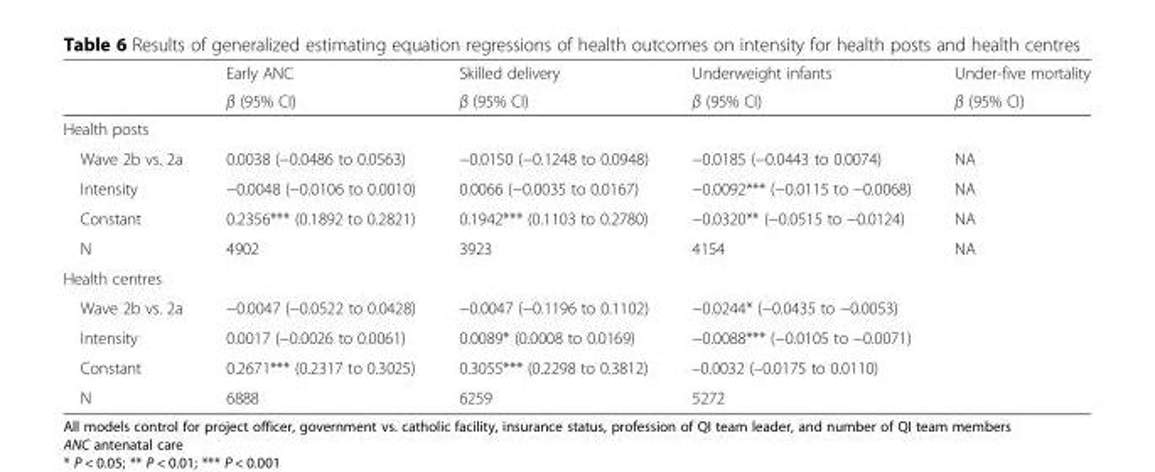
<table><thead><tr><td rowspan="2"></td><td rowspan="2">Early ANC β (95% CI)</td><td rowspan="2">Skilled delivery β (95% CI)</td><td rowspan="2">Underweight infants β (95% CI)</td><td rowspan="2">Under-five mortality β (95% CI)</td></tr><tr></tr></thead><tbody><tr><td colspan="5">Health posts</td></tr><tr><td>Wave 2b vs. 2a</td><td>0.0038 (−0.0486 to 0.0563)</td><td>−0.0150 (−0.1248 to 0.0948)</td><td>−0.0185 (−0.0443 to 0.0074)</td><td>NA</td></tr><tr><td>Intensity</td><td>−0.0048 (−0.0106 to 0.0010)</td><td>0.0066 (−0.0035 to 0.0167)</td><td>−0.0092*** (−0.0115 to −0.0068)</td><td>NA</td></tr><tr><td>Constant</td><td>0.2356*** (0.1892 to 0.2821)</td><td>0.1942*** (0.1103 to 0.2780)</td><td>−0.0320** (−0.0515 to −0.0124)</td><td>NA</td></tr><tr><td>N</td><td>4902</td><td>3923</td><td>4154</td><td>NA</td></tr><tr><td colspan="5">Health centres</td></tr><tr><td>Wave 2b vs. 2a</td><td>−0.0047 (−0.0522 to 0.0428)</td><td>−0.0047 (−0.1196 to 0.1102)</td><td>−0.0244* (−0.0435 to −0.0053)</td><td></td></tr><tr><td>Intensity</td><td>0.0017 (−0.0026 to 0.0061)</td><td>0.0089* (0.0008 to 0.0169)</td><td>−0.0088*** (−0.0105 to −0.0071)</td><td></td></tr><tr><td>Constant</td><td>0.2671*** (0.2317 to 0.3025)</td><td>0.3055*** (0.2298 to 0.3812)</td><td>–0.0032 (–0.0175 to 0.0110)</td><td></td></tr><tr><td>N</td><td>6888</td><td>6259</td><td>5272</td><td></td></tr></tbody></table>